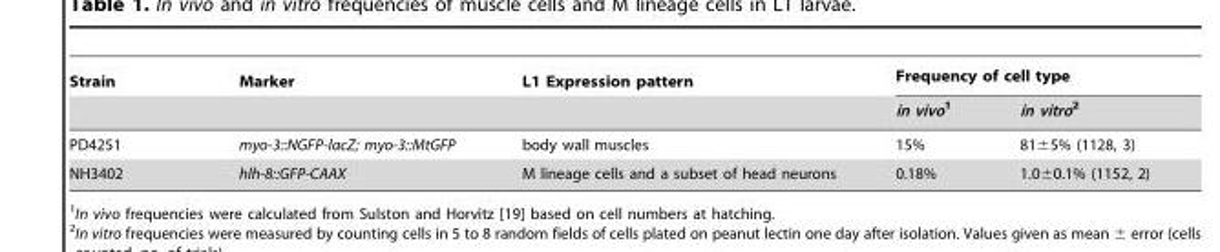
<table><thead><tr><td rowspan="2">Strain</td><td rowspan="2">Marker</td><td rowspan="2">L1 Expression pattern</td><td colspan="2">Frequency of cell type</td></tr><tr><td>in vivo1</td><td>in vitro2</td></tr></thead><tbody><tr><td>PD4251</td><td>myo-3::NGFP-lacZ; myo-3::MtGFP</td><td>body wall muscles</td><td>15%</td><td>81±5% (1128, 3)</td></tr><tr><td>NH3402</td><td>hlh-8::GFP-CAAX</td><td>M lineage cells and a subset of head neurons</td><td>0.18%</td><td>1.0±0.1% (1152, 2)</td></tr></tbody></table>